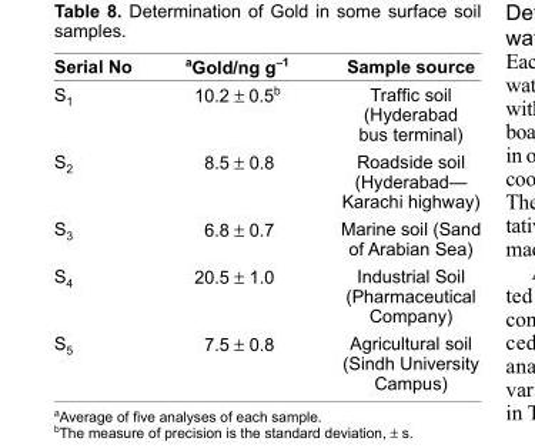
<table><thead><tr><td>Serial No</td><td>aGold/ng g<sup>−1</sup></td><td>Sample source</td></tr></thead><tbody><tr><td>S<sub>1</sub></td><td>10.2 ± 0.5<sup>b</sup></td><td>Traffi c soil (Hyderabad bus terminal)</td></tr><tr><td>S<sub>2</sub></td><td>8.5 ± 0.8</td><td>Roadside soil (Hyderabad— Karachi highway)</td></tr><tr><td>S<sub>3</sub></td><td>6.8 ± 0.7</td><td>Marine soil (Sand of Arabian Sea)</td></tr><tr><td>S<sub>4</sub></td><td>20.5 ± 1.0</td><td>Industrial Soil (Pharmaceutical Company)</td></tr><tr><td>S<sub>5</sub></td><td>7.5 ± 0.8</td><td>Agricultural soil (Sindh University Campus)</td></tr></tbody></table>